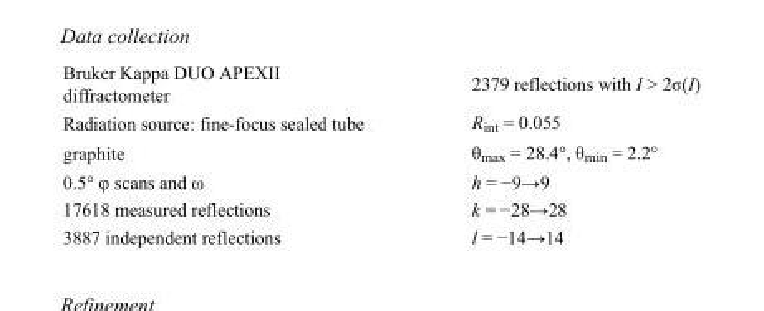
<table><tbody><tr><td>Bruker Kappa DUO APEXII diffractometer</td><td>2379 reflections with I &gt; 2σ(I)</td></tr><tr><td>Radiation source: fine-focus sealed tube</td><td>R<sub>int</sub> = 0.055</td></tr><tr><td>graphite</td><td>θ<sub>max</sub> = 28.4°, θ<sub>min</sub> = 2.2°</td></tr><tr><td>0.5° φ scans and ω</td><td>h = −9→9</td></tr><tr><td>17618 measured reflections</td><td>k = −28→28</td></tr><tr><td>3887 independent reflections</td><td>l = −14→14</td></tr></tbody></table>